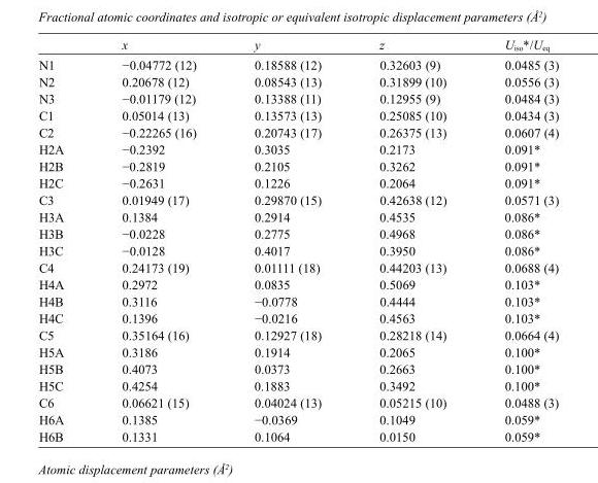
<table><thead><tr><td></td><td>x</td><td>y</td><td>z</td><td>U<sub>iso</sub>*/U<sub>eq</sub></td></tr></thead><tbody><tr><td>N1</td><td>−0.04772 (12)</td><td>0.18588 (12)</td><td>0.32603 (9)</td><td>0.0485 (3)</td></tr><tr><td>N2</td><td>0.20678 (12)</td><td>0.08543 (13)</td><td>0.31899 (10)</td><td>0.0556 (3)</td></tr><tr><td>N3</td><td>−0.01179 (12)</td><td>0.13388 (11)</td><td>0.12955 (9)</td><td>0.0484 (3)</td></tr><tr><td>C1</td><td>0.05014 (13)</td><td>0.13573 (13)</td><td>0.25085 (10)</td><td>0.0434 (3)</td></tr><tr><td>C2</td><td>−0.22265 (16)</td><td>0.20743 (17)</td><td>0.26375 (13)</td><td>0.0607 (4)</td></tr><tr><td>H2A</td><td>−0.2392</td><td>0.3035</td><td>0.2173</td><td>0.091*</td></tr><tr><td>H2B</td><td>−0.2819</td><td>0.2105</td><td>0.3262</td><td>0.091*</td></tr><tr><td>H2C</td><td>−0.2631</td><td>0.1226</td><td>0.2064</td><td>0.091*</td></tr><tr><td>C3</td><td>0.01949 (17)</td><td>0.29870 (15)</td><td>0.42638 (12)</td><td>0.0571 (3)</td></tr><tr><td>H3A</td><td>0.1384</td><td>0.2914</td><td>0.4535</td><td>0.086*</td></tr><tr><td>H3B</td><td>−0.0228</td><td>0.2775</td><td>0.4968</td><td>0.086*</td></tr><tr><td>H3C</td><td>−0.0128</td><td>0.4017</td><td>0.3950</td><td>0.086*</td></tr><tr><td>C4</td><td>0.24173 (19)</td><td>0.01111 (18)</td><td>0.44203 (13)</td><td>0.0688 (4)</td></tr><tr><td>H4A</td><td>0.2972</td><td>0.0835</td><td>0.5069</td><td>0.103*</td></tr><tr><td>H4B</td><td>0.3116</td><td>−0.0778</td><td>0.4444</td><td>0.103*</td></tr><tr><td>H4C</td><td>0.1396</td><td>−0.0216</td><td>0.4563</td><td>0.103*</td></tr><tr><td>C5</td><td>0.35164 (16)</td><td>0.12927 (18)</td><td>0.28218 (14)</td><td>0.0664 (4)</td></tr><tr><td>H5A</td><td>0.3186</td><td>0.1914</td><td>0.2065</td><td>0.100*</td></tr><tr><td>H5B</td><td>0.4073</td><td>0.0373</td><td>0.2663</td><td>0.100*</td></tr><tr><td>H5C</td><td>0.4254</td><td>0.1883</td><td>0.3492</td><td>0.100*</td></tr><tr><td>C6</td><td>0.06621 (15)</td><td>0.04024 (13)</td><td>0.05215 (10)</td><td>0.0488 (3)</td></tr><tr><td>H6A</td><td>0.1385</td><td>−0.0369</td><td>0.1049</td><td>0.059*</td></tr><tr><td>H6B</td><td>0.1331</td><td>0.1064</td><td>0.0150</td><td>0.059*</td></tr></tbody></table>